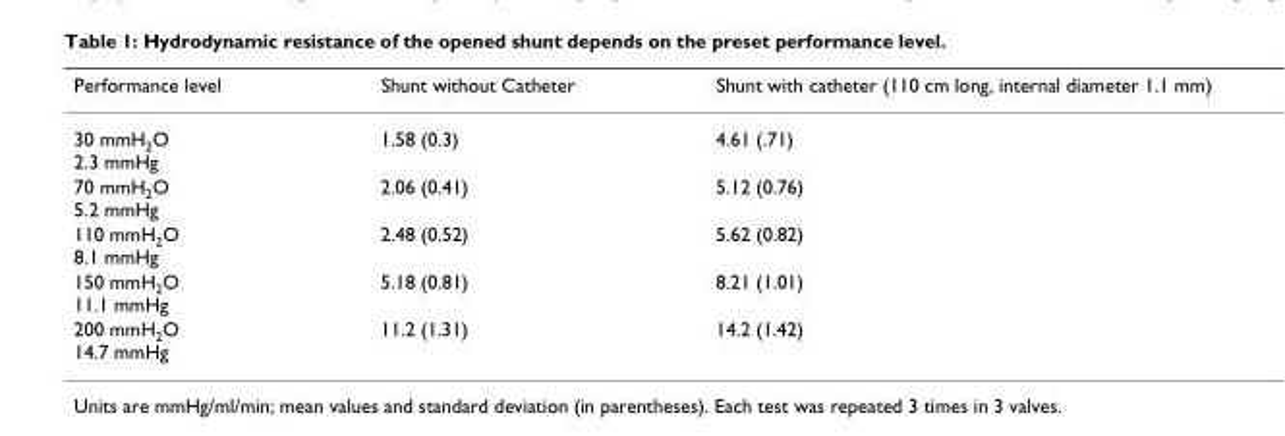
<table><thead><tr><td>Performance level</td><td>Shunt without Catheter</td><td>Shunt with catheter (110 cm long, internal diameter 1.1 mm)</td></tr></thead><tbody><tr><td>30 mmH<sub>2</sub>O 2.3 mmHg</td><td>1.58 (0.3)</td><td>4.61 (.71)</td></tr><tr><td>70 mmH<sub>2</sub>O 5.2 mmHg</td><td>2.06 (0.41)</td><td>5.12 (0.76)</td></tr><tr><td>110 mmH<sub>2</sub>O 8.1 mmHg</td><td>2.48 (0.52)</td><td>5.62 (0.82)</td></tr><tr><td>150 mmH<sub>2</sub>O 11.1 mmHg</td><td>5.18 (0.81)</td><td>8.21 (1.01)</td></tr><tr><td>200 mmH<sub>2</sub>O 14.7 mmHg</td><td>11.2 (1.31)</td><td>14.2 (1.42)</td></tr></tbody></table>